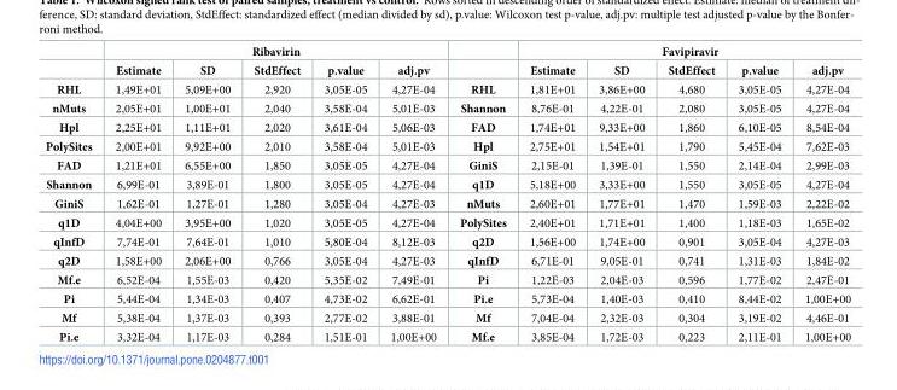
<table><thead><tr><td rowspan="2"></td><td colspan="5">Ribavirin</td><td rowspan="2"></td><td colspan="5">Favipiravir</td></tr><tr><td>Estimate</td><td>SD</td><td>StdEffect</td><td>p.value</td><td>adj.pv</td><td>Estimate</td><td>SD</td><td>StdEffect</td><td>p.value</td><td>adj.pv</td></tr></thead><tbody><tr><td>RHL</td><td>1,49E+01</td><td>5,09E+00</td><td>2,920</td><td>3,05E-05</td><td>4,27E-04</td><td>RHL</td><td>1,81E+01</td><td>3,86E+00</td><td>4,680</td><td>3,05E-05</td><td>4,27E-04</td></tr><tr><td>nMuts</td><td>2,05E+01</td><td>1,00E+01</td><td>2,040</td><td>3,58E-04</td><td>5,01E-03</td><td>Shannon</td><td>8,76E-01</td><td>4,22E-01</td><td>2,080</td><td>3,05E-05</td><td>4,27E-04</td></tr><tr><td>Hpl</td><td>2,25E+01</td><td>1,11E+01</td><td>2,020</td><td>3,61E-04</td><td>5,06E-03</td><td>FAD</td><td>1,74E+01</td><td>9,33E+00</td><td>1,860</td><td>6,10E-05</td><td>8,54E-04</td></tr><tr><td>PolySites</td><td>2,00E+01</td><td>9,92E+00</td><td>2,010</td><td>3,58E-04</td><td>5,01E-03</td><td>Hpl</td><td>2,75E+01</td><td>1,54E+01</td><td>1,790</td><td>5,45E-04</td><td>7,62E-03</td></tr><tr><td>FAD</td><td>1,21E+01</td><td>6,55E+00</td><td>1,850</td><td>3,05E-05</td><td>4,27E-04</td><td>GiniS</td><td>2,15E-01</td><td>1,39E-01</td><td>1,550</td><td>2,14E-04</td><td>2,99E-03</td></tr><tr><td>Shannon</td><td>6,99E-01</td><td>3,89E-01</td><td>1,800</td><td>3,05E-05</td><td>4,27E-04</td><td>q1D</td><td>5,18E+00</td><td>3,33E+00</td><td>1,550</td><td>3,05E-05</td><td>4,27E-04</td></tr><tr><td>GiniS</td><td>1,62E-01</td><td>1,27E-01</td><td>1,280</td><td>3,05E-04</td><td>4,27E-03</td><td>nMuts</td><td>2,60E+01</td><td>1,77E+01</td><td>1,470</td><td>1,59E-03</td><td>2,22E-02</td></tr><tr><td>q1D</td><td>4,04E+00</td><td>3,95E+00</td><td>1,020</td><td>3,05E-05</td><td>4,27E-04</td><td>PolySites</td><td>2,40E+01</td><td>1,71E+01</td><td>1,400</td><td>1,18E-03</td><td>1,65E-02</td></tr><tr><td>qInfD</td><td>7,74E-01</td><td>7,64E-01</td><td>1,010</td><td>5,80E-04</td><td>8,12E-03</td><td>q2D</td><td>1,56E+00</td><td>1,74E+00</td><td>0,901</td><td>3,05E-04</td><td>4,27E-03</td></tr><tr><td>q2D</td><td>1,58E+00</td><td>2,06E+00</td><td>0,766</td><td>3,05E-04</td><td>4,27E-03</td><td>qInfD</td><td>6,71E-01</td><td>9,05E-01</td><td>0,741</td><td>1,31E-03</td><td>1,84E-02</td></tr><tr><td>Mf.e</td><td>6,52E-04</td><td>1,55E-03</td><td>0,420</td><td>5,35E-02</td><td>7,49E-01</td><td>Pi</td><td>1,22E-03</td><td>2,04E-03</td><td>0,596</td><td>1,77E-02</td><td>2,47E-01</td></tr><tr><td>Pi</td><td>5,44E-04</td><td>1,34E-03</td><td>0,407</td><td>4,73E-02</td><td>6,62E-01</td><td>Pi.e</td><td>5,73E-04</td><td>1,40E-03</td><td>0,410</td><td>8,44E-02</td><td>1,00E+00</td></tr><tr><td>Mf</td><td>5,38E-04</td><td>1,37E-03</td><td>0,393</td><td>2,77E-02</td><td>3,88E-01</td><td>Mf</td><td>7,04E-04</td><td>2,32E-03</td><td>0,304</td><td>3,19E-02</td><td>4,46E-01</td></tr><tr><td>Pi.e</td><td>3,32E-04</td><td>1,17E-03</td><td>0,284</td><td>1,51E-01</td><td>1,00E+00</td><td>Mf.e</td><td>3,85E-04</td><td>1,72E-03</td><td>0,223</td><td>2,11E-01</td><td>1,00E+00</td></tr></tbody></table>